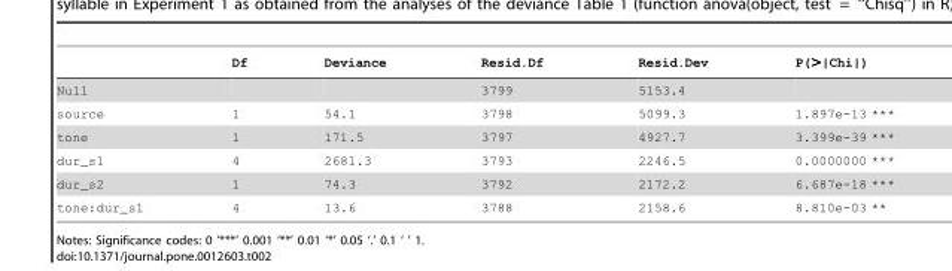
<table><thead><tr><td></td><td>Df</td><td>Deviance</td><td>Resid.Df</td><td>Resid.Dev</td><td>P(&gt;|Chi|)</td></tr></thead><tbody><tr><td>Null</td><td></td><td></td><td>3799</td><td>5153.4</td><td></td></tr><tr><td>source</td><td>1</td><td>54.1</td><td>3798</td><td>5099.3</td><td>1.897e-13 ***</td></tr><tr><td>tone</td><td>1</td><td>171.5</td><td>3797</td><td>4927.7</td><td>3.399e-39 ***</td></tr><tr><td>dur_s1</td><td>4</td><td>2681.3</td><td>3793</td><td>2246.5</td><td>0.0000000 ***</td></tr><tr><td>dur_s2</td><td>1</td><td>74.3</td><td>3792</td><td>2172.2</td><td>6.687e-18 ***</td></tr><tr><td>tone:dur_s1</td><td>4</td><td>13.6</td><td>3788</td><td>2158.6</td><td>8.810e-03 **</td></tr></tbody></table>